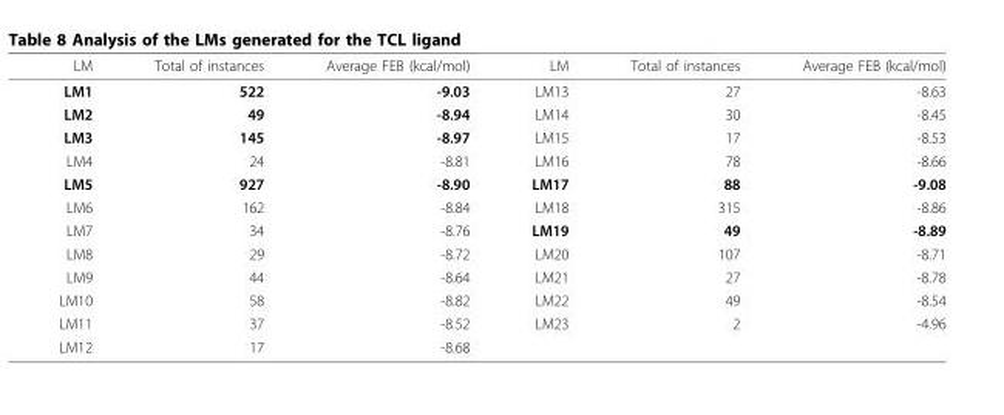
<table><thead><tr><td>LM</td><td>Total of instances</td><td>Average FEB (kcal/mol)</td><td>LM</td><td>Total of instances</td><td>Average FEB (kcal/mol)</td></tr></thead><tbody><tr><td>LM1</td><td>522</td><td>-9.03</td><td>LM13</td><td>27</td><td>-8.63</td></tr><tr><td>LM2</td><td>49</td><td>-8.94</td><td>LM14</td><td>30</td><td>-8.45</td></tr><tr><td>LM3</td><td>145</td><td>-8.97</td><td>LM15</td><td>17</td><td>-8.53</td></tr><tr><td>LM4</td><td>24</td><td>-8.81</td><td>LM16</td><td>78</td><td>-8.66</td></tr><tr><td>LM5</td><td>927</td><td>-8.90</td><td>LM17</td><td>88</td><td>-9.08</td></tr><tr><td>LM6</td><td>162</td><td>-8.84</td><td>LM18</td><td>315</td><td>-8.86</td></tr><tr><td>LM7</td><td>34</td><td>-8.76</td><td>LM19</td><td>49</td><td>-8.89</td></tr><tr><td>LM8</td><td>29</td><td>-8.72</td><td>LM20</td><td>107</td><td>-8.71</td></tr><tr><td>LM9</td><td>44</td><td>-8.64</td><td>LM21</td><td>27</td><td>-8.78</td></tr><tr><td>LM10</td><td>58</td><td>-8.82</td><td>LM22</td><td>49</td><td>-8.54</td></tr><tr><td>LM11</td><td>37</td><td>-8.52</td><td>LM23</td><td>2</td><td>-4.96</td></tr><tr><td>LM12</td><td>17</td><td>-8.68</td><td></td><td></td><td></td></tr></tbody></table>